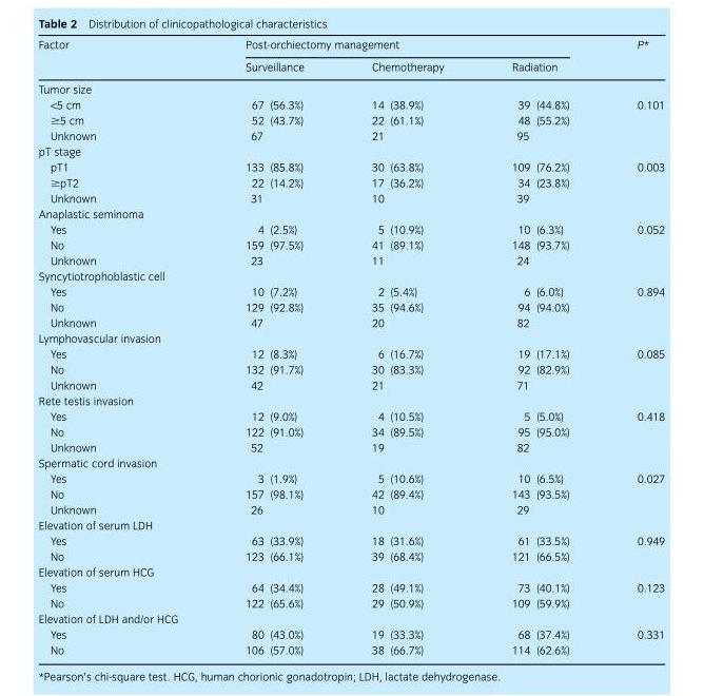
<table><thead><tr><td rowspan="2">Factor</td><td colspan="3">Post-orchiectomy management</td><td rowspan="2">P*</td></tr><tr><td>Surveillance</td><td>Chemotherapy</td><td>Radiation</td></tr></thead><tbody><tr><td colspan="5">Tumor size</td></tr><tr><td>&lt;5 cm</td><td>67 (56.3%)</td><td>14 (38.9%)</td><td>39 (44.8%)</td><td>0.101</td></tr><tr><td>≥5 cm</td><td>52 (43.7%)</td><td>22 (61.1%)</td><td>48 (55.2%)</td><td></td></tr><tr><td>Unknown</td><td>67</td><td>21</td><td>95</td><td></td></tr><tr><td colspan="5">pT stage</td></tr><tr><td>pT1</td><td>133 (85.8%)</td><td>30 (63.8%)</td><td>109 (76.2%)</td><td>0.003</td></tr><tr><td>≥pT2</td><td>22 (14.2%)</td><td>17 (36.2%)</td><td>34 (23.8%)</td><td></td></tr><tr><td>Unknown</td><td>31</td><td>10</td><td>39</td><td></td></tr><tr><td colspan="5">Anaplastic seminoma</td></tr><tr><td>Yes</td><td>4 (2.5%)</td><td>5 (10.9%)</td><td>10 (6.3%)</td><td>0.052</td></tr><tr><td>No</td><td>159 (97.5%)</td><td>41 (89.1%)</td><td>148 (93.7%)</td><td></td></tr><tr><td>Unknown</td><td>23</td><td>11</td><td>24</td><td></td></tr><tr><td colspan="5">Syncytiotrophoblastic cell</td></tr><tr><td>Yes</td><td>10 (7.2%)</td><td>2 (5.4%)</td><td>6 (6.0%)</td><td>0.894</td></tr><tr><td>No</td><td>129 (92.8%)</td><td>35 (94.6%)</td><td>94 (94.0%)</td><td></td></tr><tr><td>Unknown</td><td>47</td><td>20</td><td>82</td><td></td></tr><tr><td colspan="5">Lymphovascular invasion</td></tr><tr><td>Yes</td><td>12 (8.3%)</td><td>6 (16.7%)</td><td>19 (17.1%)</td><td>0.085</td></tr><tr><td>No</td><td>132 (91.7%)</td><td>30 (83.3%)</td><td>92 (82.9%)</td><td></td></tr><tr><td>Unknown</td><td>42</td><td>21</td><td>71</td><td></td></tr><tr><td colspan="5">Rete testis invasion</td></tr><tr><td>Yes</td><td>12 (9.0%)</td><td>4 (10.5%)</td><td>5 (5.0%)</td><td>0.418</td></tr><tr><td>No</td><td>122 (91.0%)</td><td>34 (89.5%)</td><td>95 (95.0%)</td><td></td></tr><tr><td>Unknown</td><td>52</td><td>19</td><td>82</td><td></td></tr><tr><td colspan="5">Spermatic cord invasion</td></tr><tr><td>Yes</td><td>3 (1.9%)</td><td>5 (10.6%)</td><td>10 (6.5%)</td><td>0.027</td></tr><tr><td>No</td><td>157 (98.1%)</td><td>42 (89.4%)</td><td>143 (93.5%)</td><td></td></tr><tr><td>Unknown</td><td>26</td><td>10</td><td>29</td><td></td></tr><tr><td colspan="5">Elevation of serum LDH</td></tr><tr><td>Yes</td><td>63 (33.9%)</td><td>18 (31.6%)</td><td>61 (33.5%)</td><td>0.949</td></tr><tr><td>No</td><td>123 (66.1%)</td><td>39 (68.4%)</td><td>121 (66.5%)</td><td></td></tr><tr><td colspan="5">Elevation of serum HCG</td></tr><tr><td>Yes</td><td>64 (34.4%)</td><td>28 (49.1%)</td><td>73 (40.1%)</td><td>0.123</td></tr><tr><td>No</td><td>122 (65.6%)</td><td>29 (50.9%)</td><td>109 (59.9%)</td><td></td></tr><tr><td colspan="5">Elevation of LDH and/or HCG</td></tr><tr><td>Yes</td><td>80 (43.0%)</td><td>19 (33.3%)</td><td>68 (37.4%)</td><td>0.331</td></tr><tr><td>No</td><td>106 (57.0%)</td><td>38 (66.7%)</td><td>114 (62.6%)</td><td></td></tr></tbody></table>